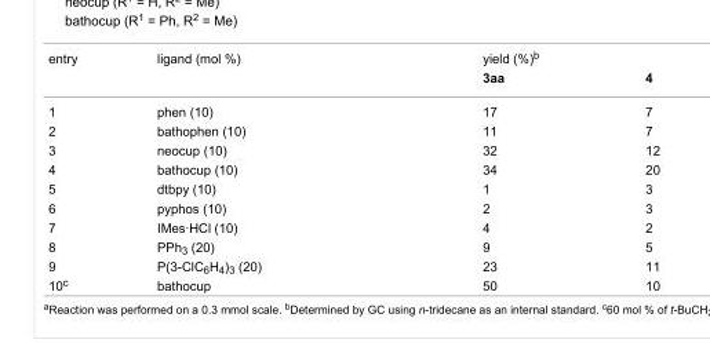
<table><tbody><tr><td>entry</td><td>ligand (mol %)</td><td colspan="2">yield (%)<sup>b</sup></td></tr><tr><td colspan="2"></td><td>3aa</td><td>4</td></tr><tr><td>1</td><td>phen (10)</td><td>17</td><td>7</td></tr><tr><td>2</td><td>bathophen (10)</td><td>11</td><td>7</td></tr><tr><td>3</td><td>neocup (10)</td><td>32</td><td>12</td></tr><tr><td>4</td><td>bathocup (10)</td><td>34</td><td>20</td></tr><tr><td>5</td><td>dtbpy (10)</td><td>1</td><td>3</td></tr><tr><td>6</td><td>pyphos (10)</td><td>2</td><td>3</td></tr><tr><td>7</td><td>IMes·HCl (10)</td><td>4</td><td>2</td></tr><tr><td>8</td><td>PPh<sub>3</sub> (20)</td><td>9</td><td>5</td></tr><tr><td>9</td><td>P(3-ClC<sub>6</sub>H<sub>4</sub>)<sub>3</sub> (20)</td><td>23</td><td>11</td></tr><tr><td>10<sup>c</sup></td><td>bathocup</td><td>50</td><td>10</td></tr></tbody></table>